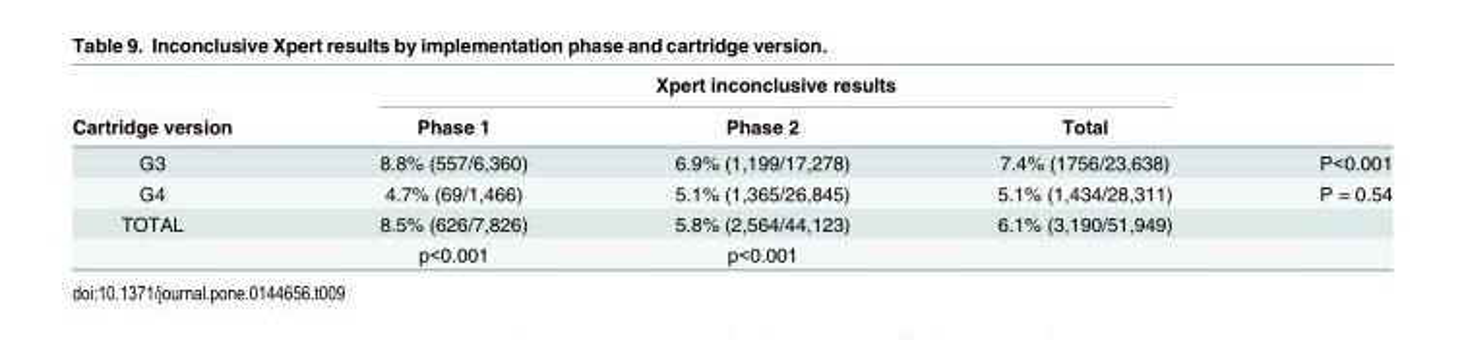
<table><thead><tr><td rowspan="2">Cartridge version</td><td colspan="3">Xpert inconclusive results</td><td rowspan="2"></td></tr><tr><td>Phase 1</td><td>Phase 2</td><td>Total</td></tr></thead><tbody><tr><td>G3</td><td>8.8% (557/6,360)</td><td>6.9% (1,199/17,278)</td><td>7.4% (1756/23,638)</td><td>P&lt;0.001</td></tr><tr><td>G4</td><td>4.7% (69/1,466)</td><td>5.1% (1,365/26,845)</td><td>5.1% (1,434/28,311)</td><td>P = 0.54</td></tr><tr><td rowspan="2">TOTAL</td><td>8.5% (626/7,826)</td><td>5.8% (2,564/44,123)</td><td>6.1% (3,190/51,949)</td><td></td></tr><tr><td>p&lt;0.001</td><td>p&lt;0.001</td><td></td><td></td></tr></tbody></table>